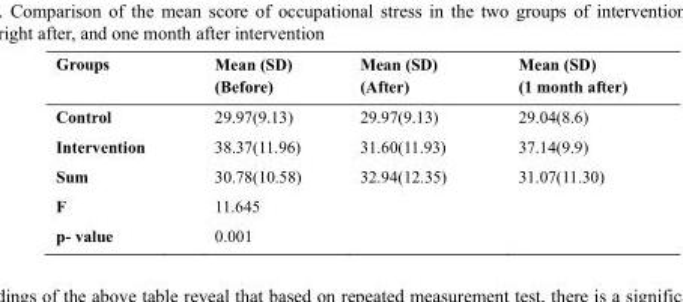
<table><thead><tr><td>Groups</td><td>Mean (SD) (Before)</td><td>Mean (SD) (After)</td><td>Mean (SD) (1 month after)</td></tr></thead><tbody><tr><td>Control</td><td>29.97(9.13)</td><td>29.97(9.13)</td><td>29.04(8.6)</td></tr><tr><td>Intervention</td><td>38.37(11.96)</td><td>31.60(11.93)</td><td>37.14(9.9)</td></tr><tr><td>Sum</td><td>30.78(10.58)</td><td>32.94(12.35)</td><td>31.07(11.30)</td></tr><tr><td>F</td><td>11.645</td><td></td><td></td></tr><tr><td>p- value</td><td>0.001</td><td></td><td></td></tr></tbody></table>